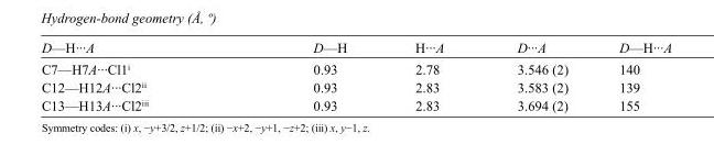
<table><tbody><tr><td>D—H···A</td><td>D—H</td><td>H···A</td><td>D···A</td><td>D—H···A</td></tr><tr><td>C7—H7A···Cl1<sup>i</sup></td><td>0.93</td><td>2.78</td><td>3.546 (2)</td><td>140</td></tr><tr><td>C12—H12A···Cl2<sup>ii</sup></td><td>0.93</td><td>2.83</td><td>3.583 (2)</td><td>139</td></tr><tr><td>C13—H13A···Cl2<sup>iii</sup></td><td>0.93</td><td>2.83</td><td>3.694 (2)</td><td>155</td></tr></tbody></table>